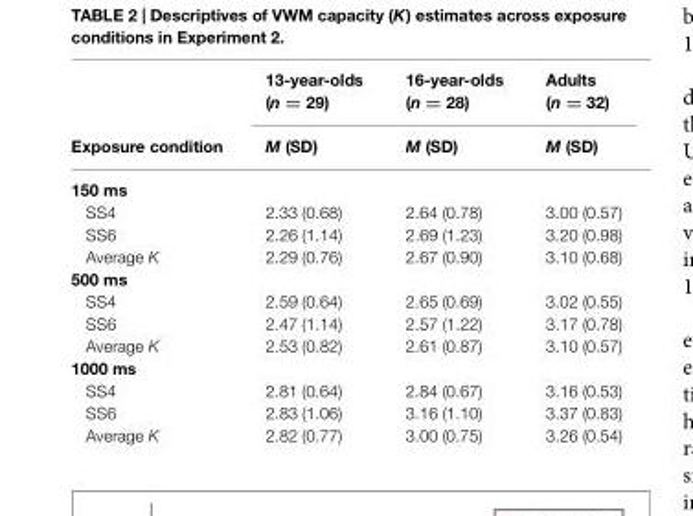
<table><thead><tr><td rowspan="2">Exposure condition</td><td rowspan="2">13-year-olds (n = 29) M (SD)</td><td rowspan="2">16-year-olds (n = 28) M (SD)</td><td rowspan="2">Adults (n = 32) M (SD)</td></tr><tr></tr></thead><tbody><tr><td colspan="4">150 ms</td></tr><tr><td>SS4</td><td>2.33 (0.68)</td><td>2.64 (0.78)</td><td>3.00 (0.57)</td></tr><tr><td>SS6</td><td>2.26 (1.14)</td><td>2.69 (1.23)</td><td>3.20 (0.98)</td></tr><tr><td>Average K</td><td>2.29 (0.76)</td><td>2.67 (0.90)</td><td>3.10 (0.68)</td></tr><tr><td colspan="4">500 ms</td></tr><tr><td>SS4</td><td>2.59 (0.64)</td><td>2.65 (0.69)</td><td>3.02 (0.55)</td></tr><tr><td>SS6</td><td>2.47 (1.14)</td><td>2.57 (1.22)</td><td>3.17 (0.78)</td></tr><tr><td>Average K</td><td>2.53 (0.82)</td><td>2.61 (0.87)</td><td>3.10 (0.57)</td></tr><tr><td colspan="4">1000 ms</td></tr><tr><td>SS4</td><td>2.81 (0.64)</td><td>2.84 (0.67)</td><td>3.16 (0.53)</td></tr><tr><td>SS6</td><td>2.83 (1.06)</td><td>3.16 (1.10)</td><td>3.37 (0.83)</td></tr><tr><td>Average K</td><td>2.82 (0.77)</td><td>3.00 (0.75)</td><td>3.26 (0.54)</td></tr></tbody></table>